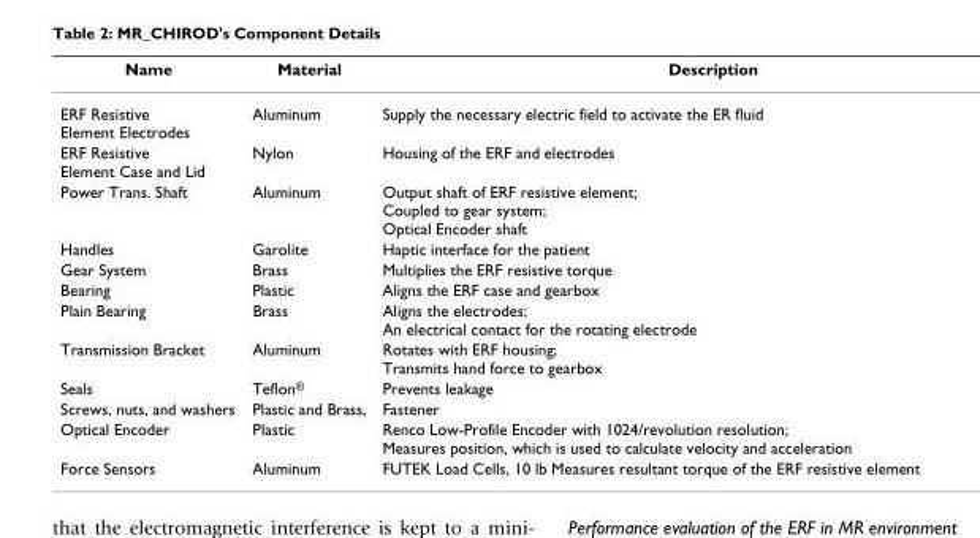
<table><thead><tr><td>Name</td><td>Material</td><td>Description</td></tr></thead><tbody><tr><td>ERF Resistive Element Electrodes</td><td>Aluminum</td><td>Supply the necessary electric field to activate the ER fluid</td></tr><tr><td>ERF Resistive Element Case and Lid</td><td>Nylon</td><td>Housing of the ERF and electrodes</td></tr><tr><td>Power Trans. Shaft</td><td>Aluminum</td><td>Output shaft of ERF resistive element; Coupled to gear system; Optical Encoder shaft</td></tr><tr><td>Handles</td><td>Garolite</td><td>Haptic interface for the patient</td></tr><tr><td>Gear System</td><td>Brass</td><td>Multiplies the ERF resistive torque</td></tr><tr><td>Bearing</td><td>Plastic</td><td>Aligns the ERF case and gearbox</td></tr><tr><td>Plain Bearing</td><td>Brass</td><td>Aligns the electrodes; An electrical contact for the rotating electrode</td></tr><tr><td>Transmission Bracket</td><td>Aluminum</td><td>Rotates with ERF housing; Transmits hand force to gearbox</td></tr><tr><td>Seals</td><td>Teflon<sup>®</sup></td><td>Prevents leakage</td></tr><tr><td>Screws, nuts, and washers</td><td>Plastic and Brass,</td><td>Fastener</td></tr><tr><td>Optical Encoder</td><td>Plastic</td><td>Renco Low-Profile Encoder with 1024/revolution resolution; Measures position, which is used to calculate velocity and acceleration</td></tr><tr><td>Force Sensors</td><td>Aluminum</td><td>FUTEK Load Cells, 10 lb Measures resultant torque of the ERF resistive element</td></tr></tbody></table>